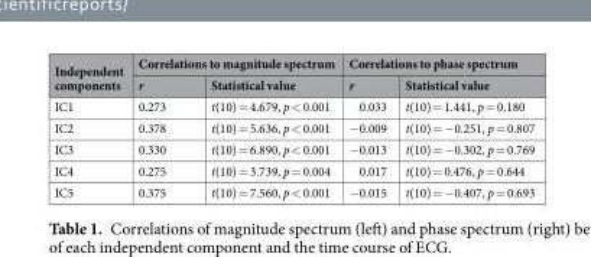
<table><thead><tr><td rowspan="2">Independent components</td><td colspan="2">Correlations to magnitude spectrum</td><td colspan="2">Correlations to phase spectrum</td></tr><tr><td>r</td><td>Statistical value</td><td>r</td><td>Statistical value</td></tr></thead><tbody><tr><td>IC1</td><td>0.273</td><td>t(10) = 4.679, p &lt; 0.001</td><td>0.033</td><td>t(10) = 1.441, p = 0.180</td></tr><tr><td>IC2</td><td>0.378</td><td>t(10) = 5.636, p &lt; 0.001</td><td>−0.009</td><td>t(10) = −0.251, p = 0.807</td></tr><tr><td>IC3</td><td>0.330</td><td>t(10) = 6.890, p &lt; 0.001</td><td>−0.013</td><td>t(10) = −0.302, p = 0.769</td></tr><tr><td>IC4</td><td>0.275</td><td>t(10) = 3.739, p = 0.004</td><td>0.017</td><td>t(10) = 0.476, p = 0.644</td></tr><tr><td>IC5</td><td>0.375</td><td>t(10) = 7.560, p &lt; 0.001</td><td>−0.015</td><td>t(10) = −0.407, p = 0.693</td></tr></tbody></table>